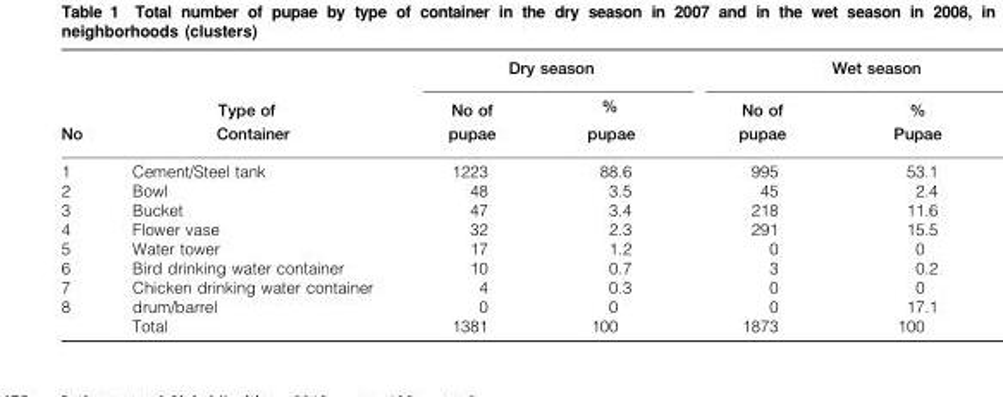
<table><thead><tr><td rowspan="3">No</td><td rowspan="3">Type of Container</td><td colspan="2">Dry season</td><td colspan="2">Wet season</td></tr><tr><td rowspan="2">No of pupae</td><td rowspan="2">% pupae</td><td rowspan="2">No of pupae</td><td rowspan="2">% Pupae</td></tr><tr></tr></thead><tbody><tr><td>1</td><td>Cement/Steel tank</td><td>1223</td><td>88.6</td><td>995</td><td>53.1</td></tr><tr><td>2</td><td>Bowl</td><td>48</td><td>3.5</td><td>45</td><td>2.4</td></tr><tr><td>3</td><td>Bucket</td><td>47</td><td>3.4</td><td>218</td><td>11.6</td></tr><tr><td>4</td><td>Flower vase</td><td>32</td><td>2.3</td><td>291</td><td>15.5</td></tr><tr><td>5</td><td>Water tower</td><td>17</td><td>1.2</td><td>0</td><td>0</td></tr><tr><td>6</td><td>Bird drinking water container</td><td>10</td><td>0.7</td><td>3</td><td>0.2</td></tr><tr><td>7</td><td>Chicken drinking water container</td><td>4</td><td>0.3</td><td>0</td><td>0</td></tr><tr><td rowspan="2">8</td><td>drum/barrel</td><td>0</td><td>0</td><td>0</td><td>17.1</td></tr><tr><td>Total</td><td>1381</td><td>100</td><td>1873</td><td>100</td></tr></tbody></table>